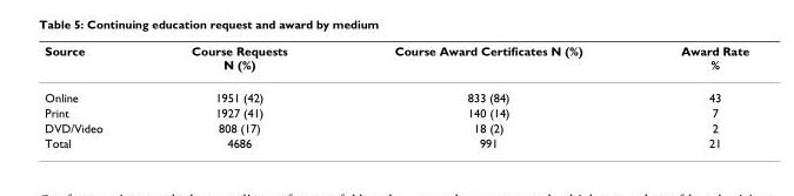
<table><thead><tr><td>Source</td><td>Course Requests N (%)</td><td>Course Award Certificates N (%)</td><td>Award Rate %</td></tr></thead><tbody><tr><td>Online</td><td>1951 (42)</td><td>833 (84)</td><td>43</td></tr><tr><td>Print</td><td>1927 (41)</td><td>140 (14)</td><td>7</td></tr><tr><td>DVD/Video</td><td>808 (17)</td><td>18 (2)</td><td>2</td></tr><tr><td>Total</td><td>4686</td><td>991</td><td>21</td></tr></tbody></table>